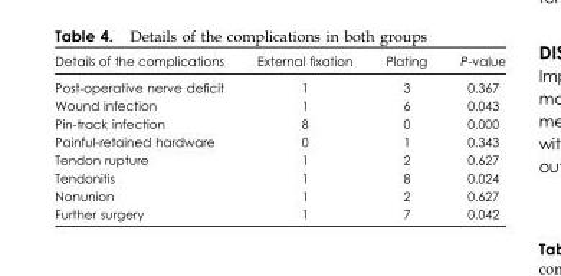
<table><thead><tr><td>Details of the complications</td><td>External fixation</td><td>Plating</td><td>P-value</td></tr></thead><tbody><tr><td>Post-operative nerve deficit</td><td>1</td><td>3</td><td>0.367</td></tr><tr><td>Wound infection</td><td>1</td><td>6</td><td>0.043</td></tr><tr><td>Pin-track infection</td><td>8</td><td>0</td><td>0.000</td></tr><tr><td>Painful-retained hardware</td><td>0</td><td>1</td><td>0.343</td></tr><tr><td>Tendon rupture</td><td>1</td><td>2</td><td>0.627</td></tr><tr><td>Tendonitis</td><td>1</td><td>8</td><td>0.024</td></tr><tr><td>Nonunion</td><td>1</td><td>2</td><td>0.627</td></tr><tr><td>Further surgery</td><td>1</td><td>7</td><td>0.042</td></tr></tbody></table>